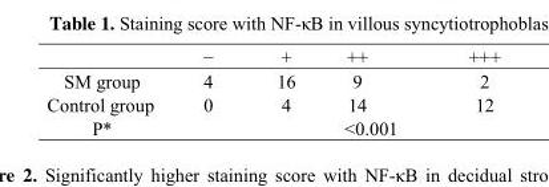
<table><thead><tr><td></td><td>−</td><td>+</td><td>++</td><td>+++</td></tr></thead><tbody><tr><td>SM group</td><td>4</td><td>16</td><td>9</td><td>2</td></tr><tr><td>Control group</td><td>0</td><td>4</td><td>14</td><td>12</td></tr><tr><td>P*</td><td></td><td></td><td>&lt;0.001</td><td></td></tr></tbody></table>